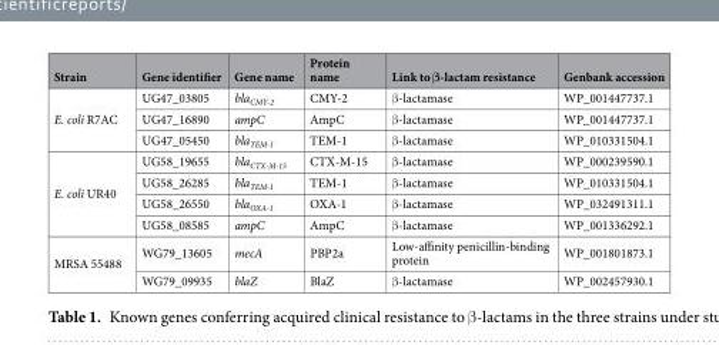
<table><thead><tr><td>Strain</td><td>Gene identifier</td><td>Gene name</td><td>Protein name</td><td>Link to β-lactam resistance</td><td>Genbank accession</td></tr></thead><tbody><tr><td rowspan="3">E. coli R7AC</td><td>UG47_03805</td><td>bla<sub>CMY-2</sub></td><td>CMY-2</td><td>β-lactamase</td><td>WP_001447737.1</td></tr><tr><td>UG47_16890</td><td>ampC</td><td>AmpC</td><td>β-lactamase</td><td>WP_001447737.1</td></tr><tr><td>UG47_05450</td><td>bla<sub>TEM-1</sub></td><td>TEM-1</td><td>β-lactamase</td><td>WP_010331504.1</td></tr><tr><td rowspan="4">E. coli UR40</td><td>UG58_19655</td><td>bla<sub>CTX-M-15</sub></td><td>CTX-M-15</td><td>β-lactamase</td><td>WP_000239590.1</td></tr><tr><td>UG58_26285</td><td>bla<sub>TEM-1</sub></td><td>TEM-1</td><td>β-lactamase</td><td>WP_010331504.1</td></tr><tr><td>UG58_26550</td><td>bla<sub>OXA-1</sub></td><td>OXA-1</td><td>β-lactamase</td><td>WP_032491311.1</td></tr><tr><td>UG58_08585</td><td>ampC</td><td>AmpC</td><td>β-lactamase</td><td>WP_001336292.1</td></tr><tr><td rowspan="2">MRSA 55488</td><td>WG79_13605</td><td>mecA</td><td>PBP2a</td><td>Low-affinity penicillin-binding protein</td><td>WP_001801873.1</td></tr><tr><td>WG79_09935</td><td>blaZ</td><td>BlaZ</td><td>β-lactamase</td><td>WP_002457930.1</td></tr></tbody></table>